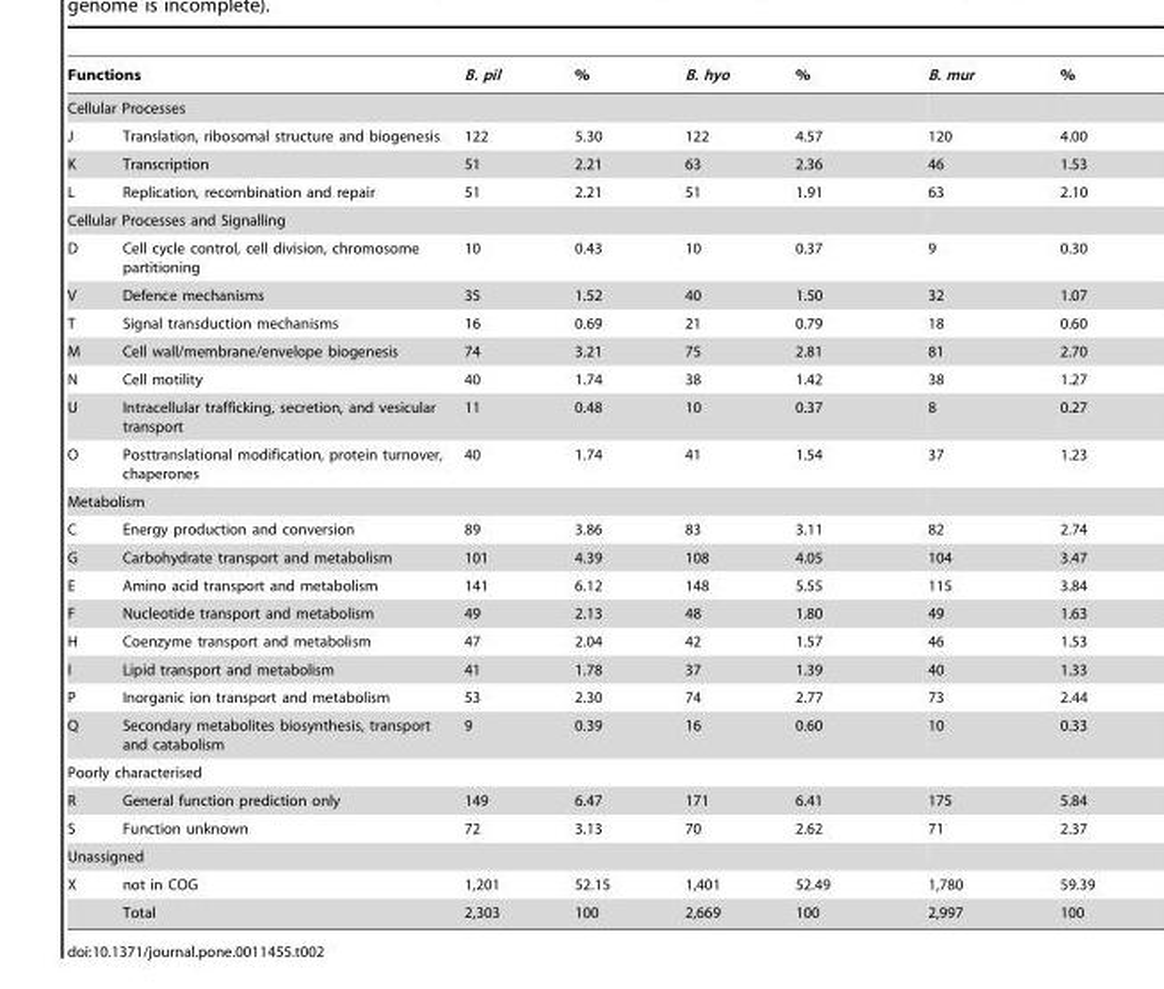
<table><thead><tr><td rowspan="2" colspan="2">Functions Cellular Processes</td><td rowspan="3">B. pil 122</td><td rowspan="3">% 5.30</td><td rowspan="3">B. hyo 122</td><td rowspan="3">% 4.57</td><td rowspan="3">B. mur 120</td><td rowspan="3">% 4.00</td></tr><tr></tr><tr><td>J</td><td>Translation, ribosomal structure and biogenesis</td></tr></thead><tbody><tr><td>K</td><td>Transcription</td><td>51</td><td>2.21</td><td>63</td><td>2.36</td><td>46</td><td>1.53</td></tr><tr><td>L</td><td>Replication, recombination and repair</td><td>51</td><td>2.21</td><td>51</td><td>1.91</td><td>63</td><td>2.10</td></tr><tr><td colspan="8">Cellular Processes and Signalling</td></tr><tr><td>D</td><td>Cell cycle control, cell division, chromosome partitioning</td><td>10</td><td>0.43</td><td>10</td><td>0.37</td><td>9</td><td>0.30</td></tr><tr><td>V</td><td>Defence mechanisms</td><td>35</td><td>1.52</td><td>40</td><td>1.50</td><td>32</td><td>1.07</td></tr><tr><td>T</td><td>Signal transduction mechanisms</td><td>16</td><td>0.69</td><td>21</td><td>0.79</td><td>18</td><td>0.60</td></tr><tr><td>M</td><td>Cell wall/membrane/envelope biogenesis</td><td>74</td><td>3.21</td><td>75</td><td>2.81</td><td>81</td><td>2.70</td></tr><tr><td>N</td><td>Cell motility</td><td>40</td><td>1.74</td><td>38</td><td>1.42</td><td>38</td><td>1.27</td></tr><tr><td>U</td><td>Intracellular trafficking, secretion, and vesicular transport</td><td>11</td><td>0.48</td><td>10</td><td>0.37</td><td>8</td><td>0.27</td></tr><tr><td>O</td><td>Posttranslational modification, protein turnover, chaperones</td><td>40</td><td>1.74</td><td>41</td><td>1.54</td><td>37</td><td>1.23</td></tr><tr><td colspan="8">Metabolism</td></tr><tr><td>C</td><td>Energy production and conversion</td><td>89</td><td>3.86</td><td>83</td><td>3.11</td><td>82</td><td>2.74</td></tr><tr><td>G</td><td>Carbohydrate transport and metabolism</td><td>101</td><td>4.39</td><td>108</td><td>4.05</td><td>104</td><td>3.47</td></tr><tr><td>E</td><td>Amino acid transport and metabolism</td><td>141</td><td>6.12</td><td>148</td><td>5.55</td><td>115</td><td>3.84</td></tr><tr><td>F</td><td>Nucleotide transport and metabolism</td><td>49</td><td>2.13</td><td>48</td><td>1.80</td><td>49</td><td>1.63</td></tr><tr><td>H</td><td>Coenzyme transport and metabolism</td><td>47</td><td>2.04</td><td>42</td><td>1.57</td><td>46</td><td>1.53</td></tr><tr><td>I</td><td>Lipid transport and metabolism</td><td>41</td><td>1.78</td><td>37</td><td>1.39</td><td>40</td><td>1.33</td></tr><tr><td>P</td><td>Inorganic ion transport and metabolism</td><td>53</td><td>2.30</td><td>74</td><td>2.77</td><td>73</td><td>2.44</td></tr><tr><td>Q</td><td>Secondary metabolites biosynthesis, transport and catabolism</td><td>9</td><td>0.39</td><td>16</td><td>0.60</td><td>10</td><td>0.33</td></tr><tr><td colspan="8">Poorly characterised</td></tr><tr><td>R</td><td>General function prediction only</td><td>149</td><td>6.47</td><td>171</td><td>6.41</td><td>175</td><td>5.84</td></tr><tr><td>S</td><td>Function unknown</td><td>72</td><td>3.13</td><td>70</td><td>2.62</td><td>71</td><td>2.37</td></tr><tr><td colspan="8">Unassigned</td></tr><tr><td rowspan="2">X</td><td>not in COG</td><td>1,201</td><td>52.15</td><td>1,401</td><td>52.49</td><td>1,780</td><td>59.39</td></tr><tr><td>Total</td><td>2,303</td><td>100</td><td>2,669</td><td>100</td><td>2,997</td><td>100</td></tr></tbody></table>